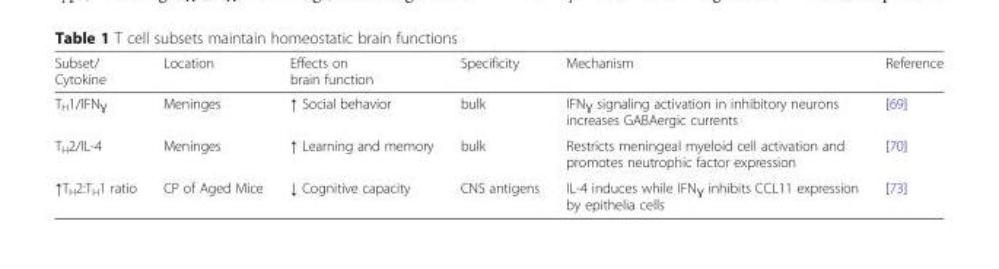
<table><thead><tr><td>Subset/ Cytokine</td><td>Location</td><td>Effects on brain function</td><td>Specificity</td><td>Mechanism</td><td>Reference</td></tr></thead><tbody><tr><td>T<sub>H</sub>1/IFN<sub>Ɣ</sub></td><td>Meninges</td><td>↑ Social behavior</td><td>bulk</td><td>IFN<sub>Ɣ</sub> signaling activation in inhibitory neurons increases GABAergic currents</td><td>[69]</td></tr><tr><td>T<sub>H</sub>2/IL-4</td><td>Meninges</td><td>↑ Learning and memory</td><td>bulk</td><td>Restricts meningeal myeloid cell activation and promotes neutrophic factor expression</td><td>[70]</td></tr><tr><td>↑T<sub>H</sub>2:T<sub>H</sub>1 ratio</td><td>CP of Aged Mice</td><td>↓ Cognitive capacity</td><td>CNS antigens</td><td>IL-4 induces while IFN<sub>Ɣ</sub> inhibits CCL11 expression by epithelia cells</td><td>[73]</td></tr></tbody></table>